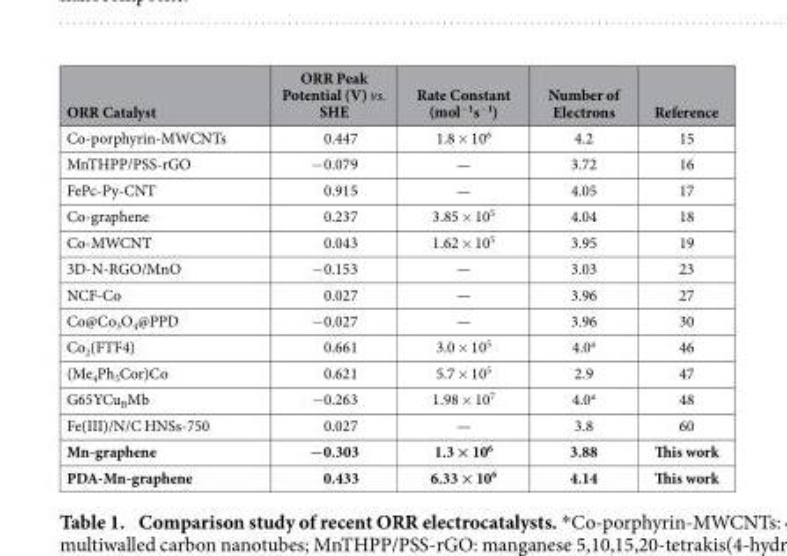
<table><thead><tr><td>ORR Catalyst</td><td>ORR Peak Potential (V) vs. SHE</td><td>Rate Constant (mol<sup>−1</sup>s<sup>−1</sup>)</td><td>Number of Electrons</td><td>Reference</td></tr></thead><tbody><tr><td>Co-porphyrin-MWCNTs</td><td>0.447</td><td>1.8 × 10<sup>6</sup></td><td>4.2</td><td>15</td></tr><tr><td>MnTHPP/PSS-rGO</td><td>− 0.079</td><td>—</td><td>3.72</td><td>16</td></tr><tr><td>FePc-Py-CNT</td><td>0.915</td><td>—</td><td>4.05</td><td>17</td></tr><tr><td>Co-graphene</td><td>0.237</td><td>3.85 × 10<sup>5</sup></td><td>4.04</td><td>18</td></tr><tr><td>Co-MWCNT</td><td>0.043</td><td>1.62 × 10<sup>5</sup></td><td>3.95</td><td>19</td></tr><tr><td>3D-N-RGO/MnO</td><td>− 0.153</td><td>—</td><td>3.03</td><td>23</td></tr><tr><td>NCF-Co</td><td>0.027</td><td>—</td><td>3.96</td><td>27</td></tr><tr><td>Co@Co<sub>3</sub>O<sub>4</sub>@PPD</td><td>− 0.027</td><td>—</td><td>3.96</td><td>30</td></tr><tr><td>Co<sub>2</sub>(FTF4)</td><td>0.661</td><td>3.0 × 10<sup>5</sup></td><td>4.0<sup>a</sup></td><td>46</td></tr><tr><td>(Me<sub>4</sub>Ph<sub>5</sub>Cor)Co</td><td>0.621</td><td>5.7 × 10<sup>5</sup></td><td>2.9</td><td>47</td></tr><tr><td>G65YCu<sub>B</sub>Mb</td><td>− 0.263</td><td>1.98 × 10<sup>7</sup></td><td>4.0<sup>a</sup></td><td>48</td></tr><tr><td>Fe(III)/N/C HNSs-750</td><td>0.027</td><td>—</td><td>3.8</td><td>60</td></tr><tr><td>Mn-graphene</td><td>−0.303</td><td>1.3 × 10<sup>6</sup></td><td>3.88</td><td>This work</td></tr><tr><td>PDA-Mn-graphene</td><td>0.433</td><td>6.33 × 10<sup>6</sup></td><td>4.14</td><td>This work</td></tr></tbody></table>